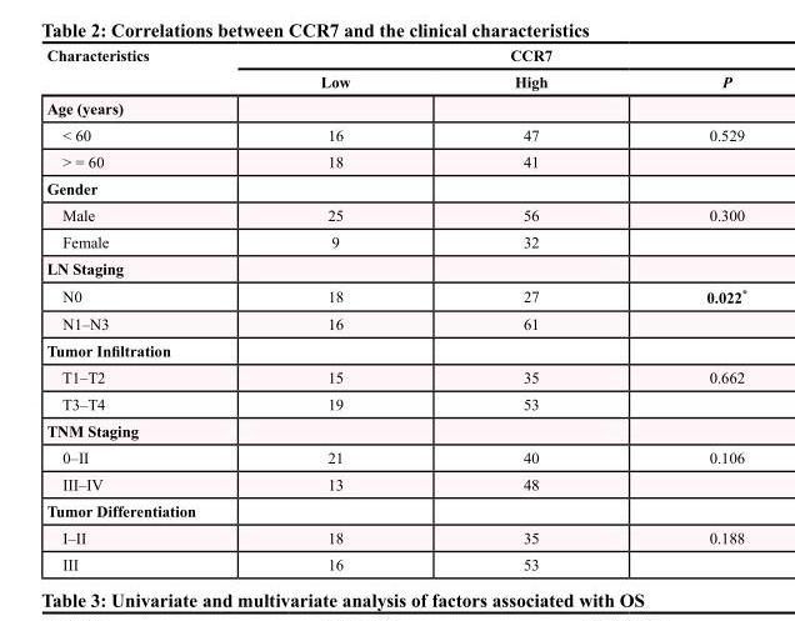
<table><thead><tr><td rowspan="2">Characteristics</td><td colspan="3">CCR7</td></tr><tr><td>Low</td><td>High</td><td>P</td></tr></thead><tbody><tr><td colspan="4">Age (years)</td></tr><tr><td>&lt; 60</td><td>16</td><td>47</td><td>0.529</td></tr><tr><td>&gt; = 60</td><td>18</td><td>41</td><td></td></tr><tr><td colspan="4">Gender</td></tr><tr><td>Male</td><td>25</td><td>56</td><td>0.300</td></tr><tr><td>Female</td><td>9</td><td>32</td><td></td></tr><tr><td colspan="4">LN Staging</td></tr><tr><td>N0</td><td>18</td><td>27</td><td>0.022*</td></tr><tr><td>N1–N3</td><td>16</td><td>61</td><td></td></tr><tr><td colspan="4">Tumor Infiltration</td></tr><tr><td>T1–T2</td><td>15</td><td>35</td><td>0.662</td></tr><tr><td>T3–T4</td><td>19</td><td>53</td><td></td></tr><tr><td colspan="4">TNM Staging</td></tr><tr><td>0–II</td><td>21</td><td>40</td><td>0.106</td></tr><tr><td>III–IV</td><td>13</td><td>48</td><td></td></tr><tr><td colspan="4">Tumor Differentiation</td></tr><tr><td>I–II</td><td>18</td><td>35</td><td>0.188</td></tr><tr><td>III</td><td>16</td><td>53</td><td></td></tr></tbody></table>